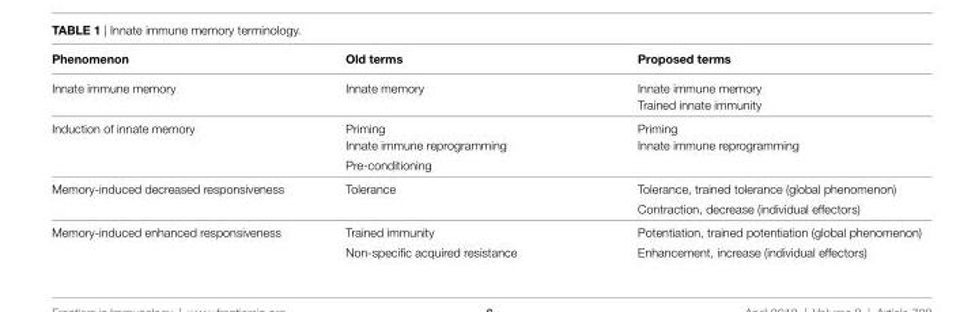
<table><thead><tr><td>phenomenon</td><td>Old terms</td><td>proposed terms</td></tr></thead><tbody><tr><td rowspan="2">Innate immune memory</td><td rowspan="2">Innate memory</td><td>Innate immune memory</td></tr><tr><td>Trained innate immunity</td></tr><tr><td rowspan="3">Induction of innate memory</td><td>Priming</td><td>Priming</td></tr><tr><td>Innate immune reprogramming</td><td>Innate immune reprogramming</td></tr><tr><td>Pre-conditioning</td><td></td></tr><tr><td rowspan="2">Memory-induced decreased responsiveness</td><td rowspan="2">Tolerance</td><td>Tolerance, trained tolerance (global phenomenon)</td></tr><tr><td>Contraction, decrease (individual effectors)</td></tr><tr><td rowspan="2">Memory-induced enhanced responsiveness</td><td>Trained immunity</td><td>Potentiation, trained potentiation (global phenomenon)</td></tr><tr><td>Non-specific acquired resistance</td><td>Enhancement, increase (individual effectors)</td></tr></tbody></table>